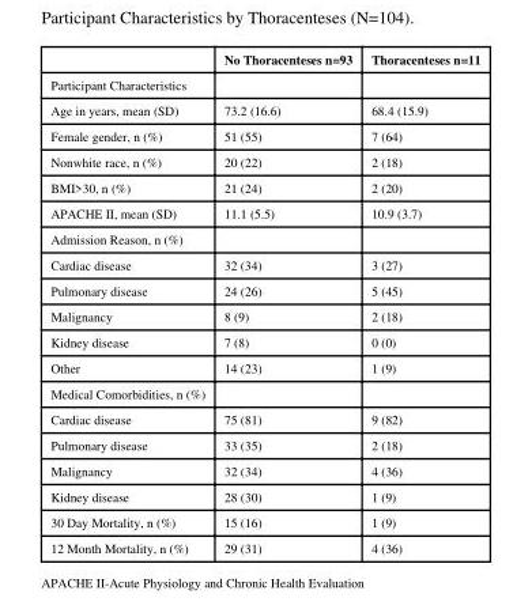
<table><thead><tr><td></td><td>No Thoracenteses n=93</td><td>Thoracenteses n=11</td></tr></thead><tbody><tr><td colspan="3">Participant Characteristics</td></tr><tr><td>Age in years, mean (SD)</td><td>73.2 (16.6)</td><td>68.4 (15.9)</td></tr><tr><td>Female gender, n (%)</td><td>51 (55)</td><td>7 (64)</td></tr><tr><td>Nonwhite race, n (%)</td><td>20 (22)</td><td>2 (18)</td></tr><tr><td>BMI&gt;30, n (%)</td><td>21 (24)</td><td>2 (20)</td></tr><tr><td>APACHE II, mean (SD)</td><td>11.1 (5.5)</td><td>10.9 (3.7)</td></tr><tr><td colspan="3">Admission Reason, n (%)</td></tr><tr><td>Cardiac disease</td><td>32 (34)</td><td>3 (27)</td></tr><tr><td>Pulmonary disease</td><td>24 (26)</td><td>5 (45)</td></tr><tr><td>Malignancy</td><td>8 (9)</td><td>2 (18)</td></tr><tr><td>Kidney disease</td><td>7 (8)</td><td>0 (0)</td></tr><tr><td>Other</td><td>14 (23)</td><td>1 (9)</td></tr><tr><td colspan="3">Medical Comorbidities, n (%)</td></tr><tr><td>Cardiac disease</td><td>75 (81)</td><td>9 (82)</td></tr><tr><td>Pulmonary disease</td><td>33 (35)</td><td>2 (18)</td></tr><tr><td>Malignancy</td><td>32 (34)</td><td>4 (36)</td></tr><tr><td>Kidney disease</td><td>28 (30)</td><td>1 (9)</td></tr><tr><td>30 Day Mortality, n (%)</td><td>15 (16)</td><td>1 (9)</td></tr><tr><td>12 Month Mortality, n (%)</td><td>29 (31)</td><td>4 (36)</td></tr></tbody></table>